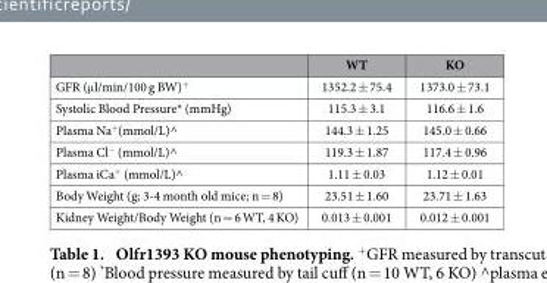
<table><thead><tr><td></td><td>WT</td><td>KO</td></tr></thead><tbody><tr><td>GFR (μ l/min/100 g BW)<sup>+</sup></td><td>1352.2 ± 75.4</td><td>1373.0 ± 73.1</td></tr><tr><td>Systolic Blood Pressure* (mmHg)</td><td>115.3 ± 3.1</td><td>116.6 ± 1.6</td></tr><tr><td>Plasma Na<sup>+</sup>(mmol/L)^</td><td>144.3 ± 1.25</td><td>145.0 ± 0.66</td></tr><tr><td>Plasma Cl<sup>−</sup> (mmol/L)^</td><td>119.3 ± 1.87</td><td>117.4 ± 0.96</td></tr><tr><td>Plasma iCa<sup>+</sup> (mmol/L)^</td><td>1.11 ± 0.03</td><td>1.12 ± 0.01</td></tr><tr><td>Body Weight (g; 3-4 month old mice; n = 8)</td><td>23.51 ± 1.60</td><td>23.71 ± 1.63</td></tr><tr><td>Kidney Weight/Body Weight (n = 6 WT, 4 KO)</td><td>0.013 ± 0.001</td><td>0.012 ± 0.001</td></tr></tbody></table>